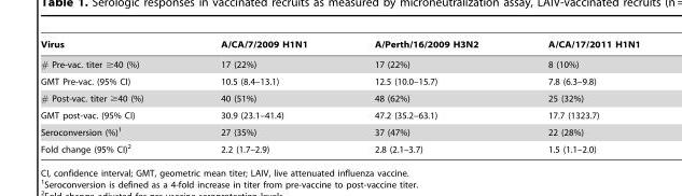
<table><thead><tr><td>Virus</td><td>A/CA/7/2009 H1N1</td><td>A/Perth/16/2009 H3N2</td><td>A/CA/17/2011 H1N1</td></tr></thead><tbody><tr><td># Pre-vac. titer ≥40 (%)</td><td>17 (22%)</td><td>17 (22%)</td><td>8 (10%)</td></tr><tr><td>GMT Pre-vac. (95% CI)</td><td>10.5 (8.4–13.1)</td><td>12.5 (10.0–15.7)</td><td>7.8 (6.3–9.8)</td></tr><tr><td># Post-vac. titer ≥40 (%)</td><td>40 (51%)</td><td>48 (62%)</td><td>25 (32%)</td></tr><tr><td>GMT post-vac. (95% CI)</td><td>30.9 (23.1–41.4)</td><td>47.2 (35.2–63.1)</td><td>17.7 (1323.7)</td></tr><tr><td>Seroconversion (%)<sup>1</sup></td><td>27 (35%)</td><td>37 (47%)</td><td>22 (28%)</td></tr><tr><td>Fold change (95% CI)<sup>2</sup></td><td>2.2 (1.7–2.9)</td><td>2.8 (2.1–3.7)</td><td>1.5 (1.1–2.0)</td></tr></tbody></table>